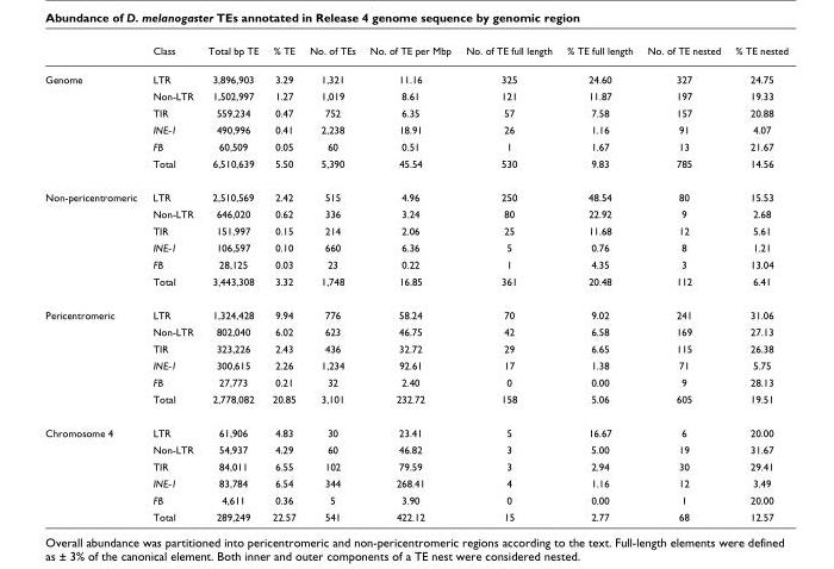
<table><thead><tr><td></td><td>Class</td><td>Total bp TE</td><td>% TE</td><td>No. of TEs</td><td>No. of TE per Mbp</td><td>No. of TE full length</td><td>% TE full length</td><td>No. of TE nested</td><td>% TE nested</td></tr></thead><tbody><tr><td rowspan="6">Genome</td><td>LTR</td><td>3,896,903</td><td>3.29</td><td>1,321</td><td>11.16</td><td>325</td><td>24.60</td><td>327</td><td>24.75</td></tr><tr><td>Non-LTR</td><td>1,502,997</td><td>1.27</td><td>1,019</td><td>8.61</td><td>121</td><td>11.87</td><td>197</td><td>19.33</td></tr><tr><td>TIR</td><td>559,234</td><td>0.47</td><td>752</td><td>6.35</td><td>57</td><td>7.58</td><td>157</td><td>20.88</td></tr><tr><td>INE-1</td><td>490,996</td><td>0.41</td><td>2,238</td><td>18.91</td><td>26</td><td>1.16</td><td>91</td><td>4.07</td></tr><tr><td>FB</td><td>60,509</td><td>0.05</td><td>60</td><td>0.51</td><td>1</td><td>1.67</td><td>13</td><td>21.67</td></tr><tr><td>Total</td><td>6,510,639</td><td>5.50</td><td>5,390</td><td>45.54</td><td>530</td><td>9.83</td><td>785</td><td>14.56</td></tr><tr><td rowspan="6">Non-pericentromeric</td><td>LTR</td><td>2,510,569</td><td>2.42</td><td>515</td><td>4.96</td><td>250</td><td>48.54</td><td>80</td><td>15.53</td></tr><tr><td>Non-LTR</td><td>646,020</td><td>0.62</td><td>336</td><td>3.24</td><td>80</td><td>22.92</td><td>9</td><td>2.68</td></tr><tr><td>TIR</td><td>151,997</td><td>0.15</td><td>214</td><td>2.06</td><td>25</td><td>11.68</td><td>12</td><td>5.61</td></tr><tr><td>INE-1</td><td>106,597</td><td>0.10</td><td>660</td><td>6.36</td><td>5</td><td>0.76</td><td>8</td><td>1.21</td></tr><tr><td>FB</td><td>28,125</td><td>0.03</td><td>23</td><td>0.22</td><td>1</td><td>4.35</td><td>3</td><td>13.04</td></tr><tr><td>Total</td><td>3,443,308</td><td>3.32</td><td>1,748</td><td>16.85</td><td>361</td><td>20.48</td><td>112</td><td>6.41</td></tr><tr><td rowspan="6">Pericentromeric</td><td>LTR</td><td>1,324,428</td><td>9.94</td><td>776</td><td>58.24</td><td>70</td><td>9.02</td><td>241</td><td>31.06</td></tr><tr><td>Non-LTR</td><td>802,040</td><td>6.02</td><td>623</td><td>46.75</td><td>42</td><td>6.58</td><td>169</td><td>27.13</td></tr><tr><td>TIR</td><td>323,226</td><td>2.43</td><td>436</td><td>32.72</td><td>29</td><td>6.65</td><td>115</td><td>26.38</td></tr><tr><td>INE-1</td><td>300,615</td><td>2.26</td><td>1,234</td><td>92.61</td><td>17</td><td>1.38</td><td>71</td><td>5.75</td></tr><tr><td>FB</td><td>27,773</td><td>0.21</td><td>32</td><td>2.40</td><td>0</td><td>0.00</td><td>9</td><td>28.13</td></tr><tr><td>Total</td><td>2,778,082</td><td>20.85</td><td>3,101</td><td>232.72</td><td>158</td><td>5.06</td><td>605</td><td>19.51</td></tr><tr><td rowspan="6">Chromosome 4</td><td>LTR</td><td>61,906</td><td>4.83</td><td>30</td><td>23.41</td><td>5</td><td>16.67</td><td>6</td><td>20.00</td></tr><tr><td>Non-LTR</td><td>54,937</td><td>4.29</td><td>60</td><td>46.82</td><td>3</td><td>5.00</td><td>19</td><td>31.67</td></tr><tr><td>TIR</td><td>84,011</td><td>6.55</td><td>102</td><td>79.59</td><td>3</td><td>2.94</td><td>30</td><td>29.41</td></tr><tr><td>INE-1</td><td>83,784</td><td>6.54</td><td>344</td><td>268.41</td><td>4</td><td>1.16</td><td>12</td><td>3.49</td></tr><tr><td>FB</td><td>4,611</td><td>0.36</td><td>5</td><td>3.90</td><td>0</td><td>0.00</td><td>1</td><td>20.00</td></tr><tr><td>Total</td><td>289,249</td><td>22.57</td><td>541</td><td>422.12</td><td>15</td><td>2.77</td><td>68</td><td>12.57</td></tr></tbody></table>